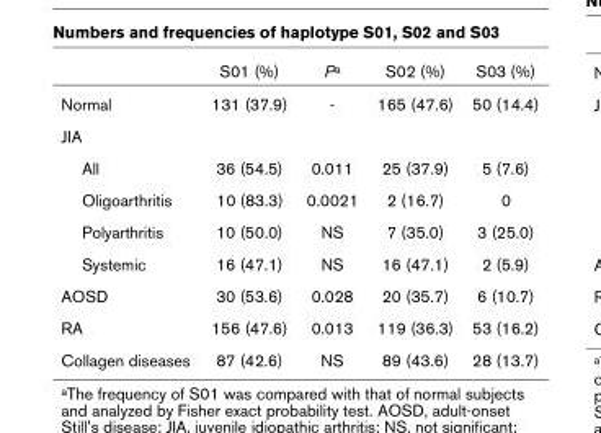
<table><thead><tr><td></td><td>S01 (%)</td><td>Pa</td><td>S02 (%)</td><td>S03 (%)</td></tr></thead><tbody><tr><td>Normal</td><td>131 (37.9)</td><td>-</td><td>165 (47.6)</td><td>50 (14.4)</td></tr><tr><td colspan="5">JIA</td></tr><tr><td>All</td><td>36 (54.5)</td><td>0.011</td><td>25 (37.9)</td><td>5 (7.6)</td></tr><tr><td>Oligoarthritis</td><td>10 (83.3)</td><td>0.0021</td><td>2 (16.7)</td><td>0</td></tr><tr><td>Polyarthritis</td><td>10 (50.0)</td><td>NS</td><td>7 (35.0)</td><td>3 (25.0)</td></tr><tr><td>Systemic</td><td>16 (47.1)</td><td>NS</td><td>16 (47.1)</td><td>2 (5.9)</td></tr><tr><td>AOSD</td><td>30 (53.6)</td><td>0.028</td><td>20 (35.7)</td><td>6 (10.7)</td></tr><tr><td>RA</td><td>156 (47.6)</td><td>0.013</td><td>119 (36.3)</td><td>53 (16.2)</td></tr><tr><td>Collagen diseases</td><td>87 (42.6)</td><td>NS</td><td>89 (43.6)</td><td>28 (13.7)</td></tr></tbody></table>